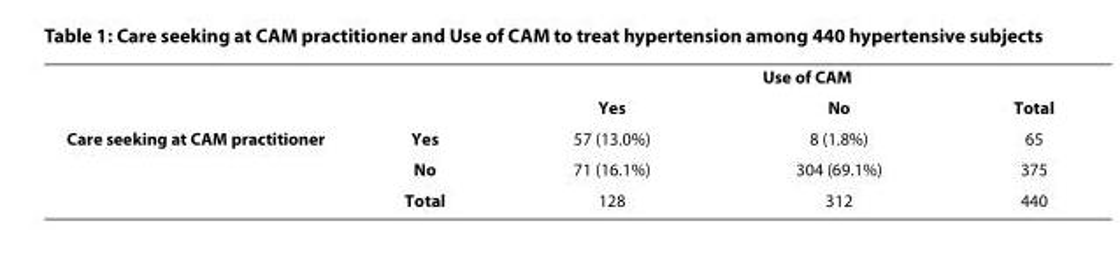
<table><thead><tr><td rowspan="2"></td><td rowspan="2"></td><td colspan="3">Use of CAM</td></tr><tr><td>Yes</td><td>No</td><td>Total</td></tr></thead><tbody><tr><td rowspan="3">Care seeking at CAM practitioner</td><td>Yes</td><td>57 (13.0%)</td><td>8 (1.8%)</td><td>65</td></tr><tr><td>No</td><td>71 (16.1%)</td><td>304 (69.1%)</td><td>375</td></tr><tr><td>Total</td><td>128</td><td>312</td><td>440</td></tr></tbody></table>